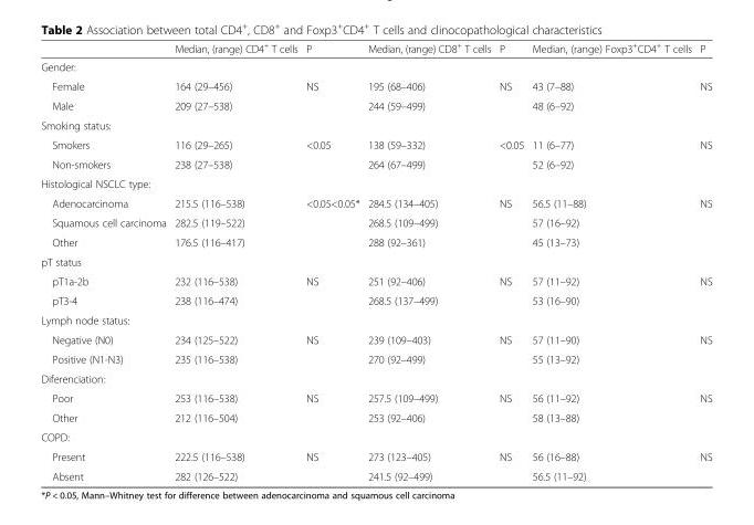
<table><thead><tr><td></td><td>Median, (range) CD4<sup>+</sup> T cells</td><td>P</td><td>Median, (range) CD8<sup>+</sup> T cells</td><td>P</td><td>Median, (range) Foxp3<sup>+</sup>CD4<sup>+</sup> T cells</td><td>P</td></tr></thead><tbody><tr><td colspan="7">Gender:</td></tr><tr><td>Female</td><td>164 (29–456)</td><td rowspan="2">NS</td><td>195 (68–406)</td><td rowspan="2">NS</td><td>43 (7–88)</td><td rowspan="2">NS</td></tr><tr><td>Male</td><td>209 (27–538)</td><td>244 (59–499)</td><td>48 (6–92)</td></tr><tr><td colspan="7">Smoking status:</td></tr><tr><td>Smokers</td><td>116 (29–265)</td><td rowspan="2">&lt;0.05</td><td>138 (59–332)</td><td rowspan="2">&lt;0.05</td><td>11 (6–77)</td><td rowspan="2">NS</td></tr><tr><td>Non-smokers</td><td>238 (27–538)</td><td>264 (67–499)</td><td>52 (6–92)</td></tr><tr><td colspan="7">Histological NSCLC type:</td></tr><tr><td>Adenocarcinoma</td><td>215.5 (116–538)</td><td rowspan="3">&lt;0.05&lt;0.05*</td><td>284.5 (134–405)</td><td rowspan="3">NS</td><td>56.5 (11–88)</td><td rowspan="3">NS</td></tr><tr><td>Squamous cell carcinoma</td><td>282.5 (119–522)</td><td>268.5 (109–499)</td><td>57 (16–92)</td></tr><tr><td>Other</td><td>176.5 (116–417)</td><td>288 (92–361)</td><td>45 (13–73)</td></tr><tr><td colspan="7">pT status</td></tr><tr><td>pT1a-2b</td><td>232 (116–538)</td><td rowspan="2">NS</td><td>251 (92–406)</td><td rowspan="2">NS</td><td>57 (11–92)</td><td rowspan="2">NS</td></tr><tr><td>pT3-4</td><td>238 (116–474)</td><td>268.5 (137–499)</td><td>53 (16–90)</td></tr><tr><td colspan="7">Lymph node status:</td></tr><tr><td>Negative (N0)</td><td>234 (125–522)</td><td rowspan="2">NS</td><td>239 (109–403)</td><td rowspan="2">NS</td><td>57 (11–90)</td><td rowspan="2">NS</td></tr><tr><td>Positive (N1-N3)</td><td>235 (116–538)</td><td>270 (92–499)</td><td>55 (13–92)</td></tr><tr><td colspan="7">Diferenciation:</td></tr><tr><td>Poor</td><td>253 (116–538)</td><td rowspan="2">NS</td><td>257.5 (109–499)</td><td rowspan="2">NS</td><td>56 (11–92)</td><td rowspan="2">NS</td></tr><tr><td>Other</td><td>212 (116–504)</td><td>253 (92–406)</td><td>58 (13–88)</td></tr><tr><td colspan="7">COPD:</td></tr><tr><td>Present</td><td>222.5 (116–538)</td><td rowspan="2">NS</td><td>273 (123–405)</td><td rowspan="2">NS</td><td>56 (16–88)</td><td rowspan="2">NS</td></tr><tr><td>Absent</td><td>282 (126–522)</td><td>241.5 (92–499)</td><td>56.5 (11–92)</td></tr></tbody></table>